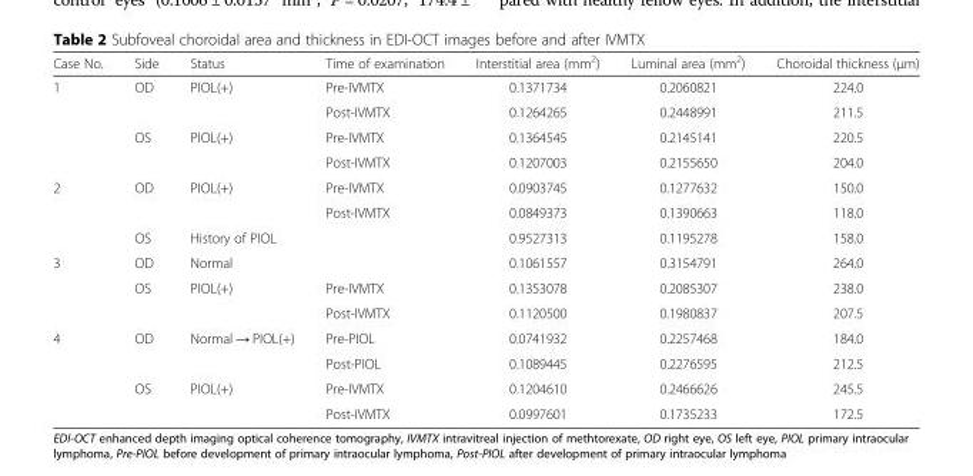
<table><thead><tr><td>Case No.</td><td>Side</td><td>Status</td><td>Time of examination</td><td>Interstitial area (mm<sup>2</sup>)</td><td>Luminal area (mm<sup>2</sup>)</td><td>Choroidal thickness (μm)</td></tr></thead><tbody><tr><td rowspan="4">1</td><td rowspan="2">OD</td><td rowspan="2">PIOL(+)</td><td>Pre-IVMTX</td><td>0.1371734</td><td>0.2060821</td><td>224.0</td></tr><tr><td>Post-IVMTX</td><td>0.1264265</td><td>0.2448991</td><td>211.5</td></tr><tr><td rowspan="2">OS</td><td rowspan="2">PIOL(+)</td><td>Pre-IVMTX</td><td>0.1364545</td><td>0.2145141</td><td>220.5</td></tr><tr><td>Post-IVMTX</td><td>0.1207003</td><td>0.2155650</td><td>204.0</td></tr><tr><td rowspan="3">2</td><td rowspan="2">OD</td><td rowspan="2">PIOL(+)</td><td>Pre-IVMTX</td><td>0.0903745</td><td>0.1277632</td><td>150.0</td></tr><tr><td>Post-IVMTX</td><td>0.0849373</td><td>0.1390663</td><td>118.0</td></tr><tr><td>OS</td><td>History of PIOL</td><td></td><td>0.9527313</td><td>0.1195278</td><td>158.0</td></tr><tr><td rowspan="3">3</td><td>OD</td><td>Normal</td><td></td><td>0.1061557</td><td>0.3154791</td><td>264.0</td></tr><tr><td rowspan="2">OS</td><td rowspan="2">PIOL(+)</td><td>Pre-IVMTX</td><td>0.1353078</td><td>0.2085307</td><td>238.0</td></tr><tr><td>Post-IVMTX</td><td>0.1120500</td><td>0.1980837</td><td>207.5</td></tr><tr><td rowspan="4">4</td><td rowspan="2">OD</td><td rowspan="2">Normal → PIOL(+)</td><td>Pre-PIOL</td><td>0.0741932</td><td>0.2257468</td><td>184.0</td></tr><tr><td>Post-PIOL</td><td>0.1089445</td><td>0.2276595</td><td>212.5</td></tr><tr><td rowspan="2">OS</td><td rowspan="2">PIOL(+)</td><td>Pre-IVMTX</td><td>0.1204610</td><td>0.2466626</td><td>245.5</td></tr><tr><td>Post-IVMTX</td><td>0.0997601</td><td>0.1735233</td><td>172.5</td></tr></tbody></table>